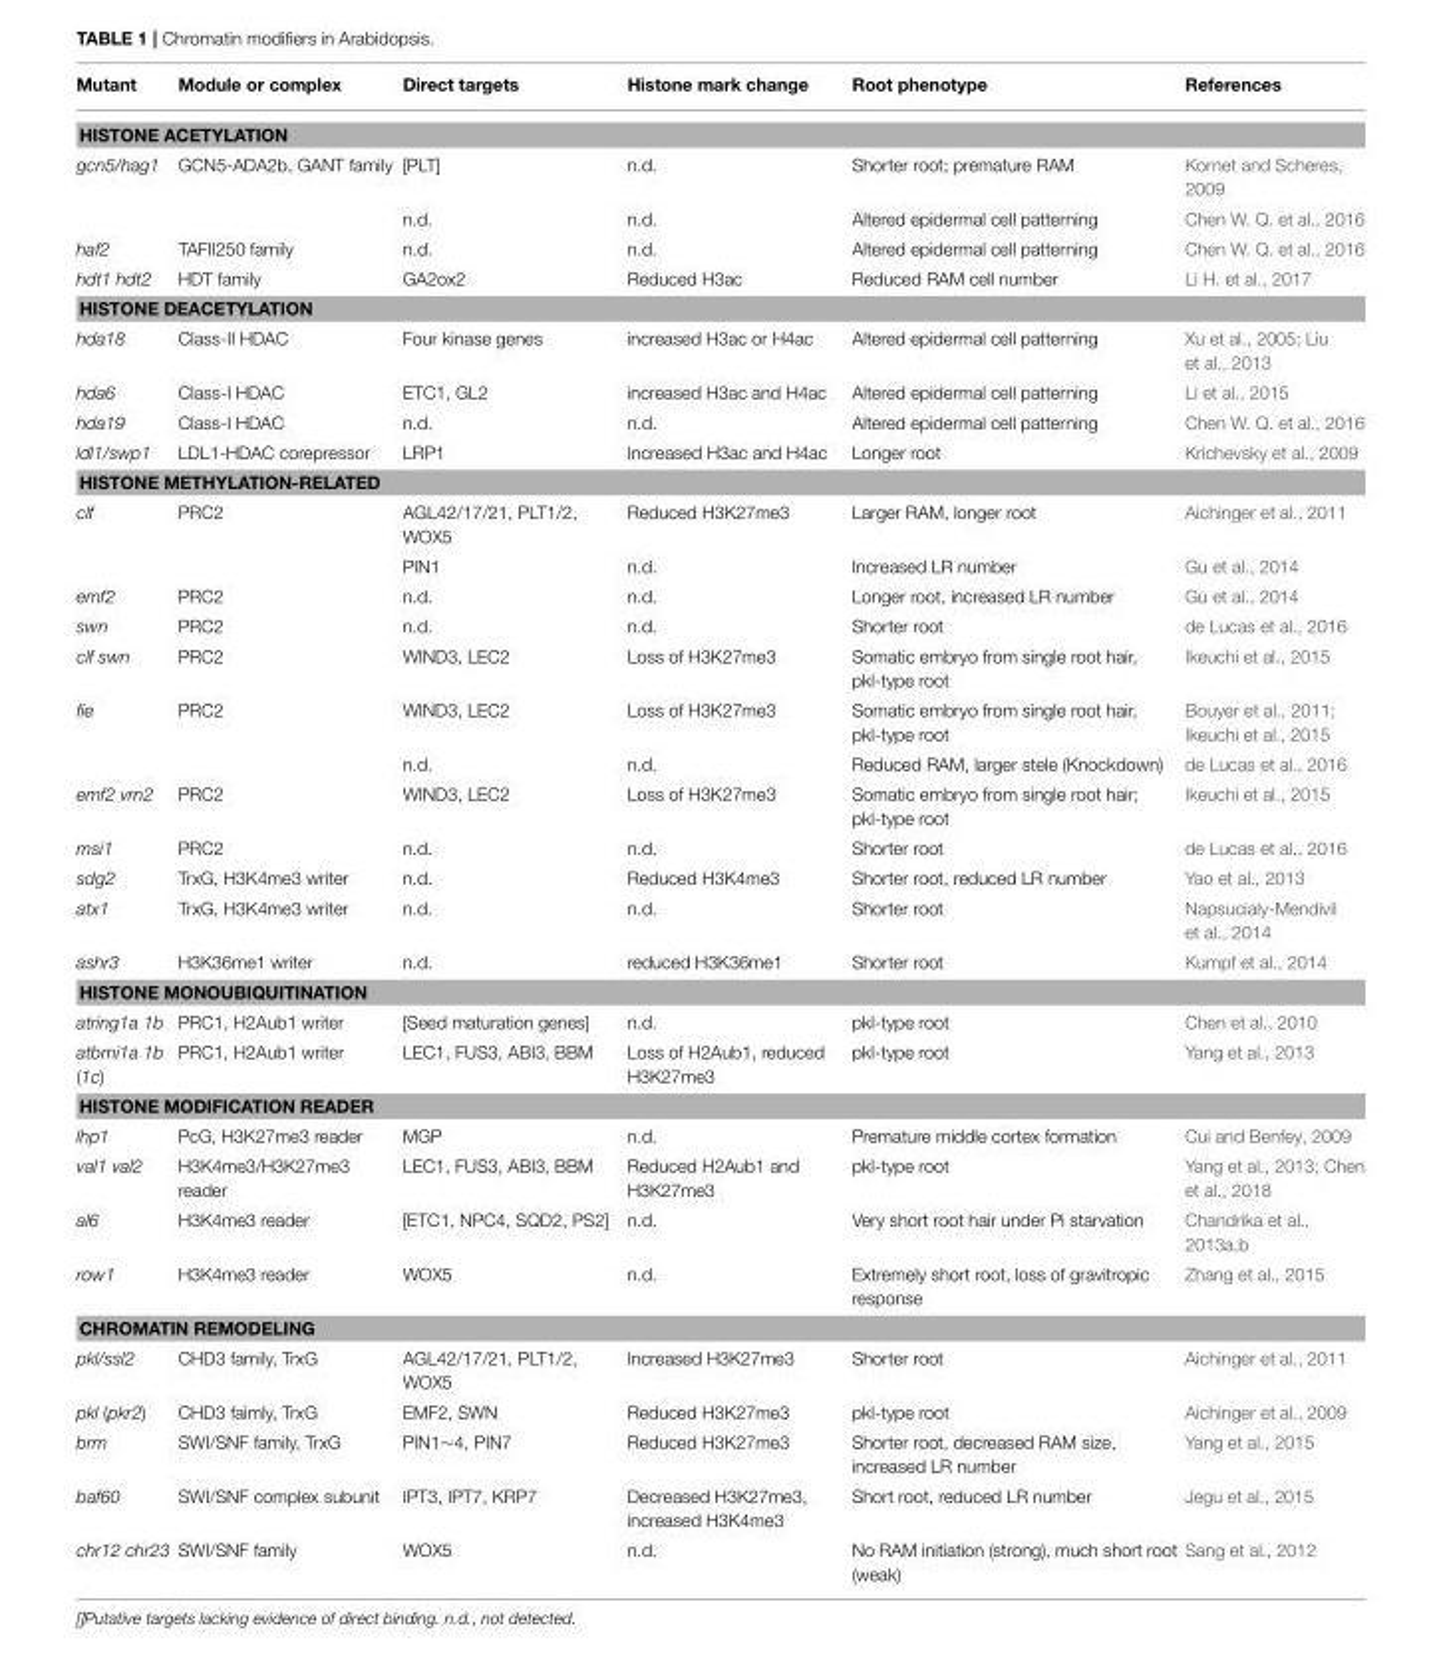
<table><thead><tr><td>Mutant</td><td>Module or complex</td><td>Direct targets</td><td>Histone mark change</td><td>Root phenotype</td><td>References</td></tr></thead><tbody><tr><td colspan="6">HISTONE ACETYLATION</td></tr><tr><td rowspan="2">gcn5/hag1</td><td>GCN5-ADA2b, GANT family</td><td>[PLT]</td><td>n.d.</td><td>Shorter root; premature RAM</td><td>Kornet and Scheres, 2009</td></tr><tr><td></td><td>n.d.</td><td>n.d.</td><td>Altered epidermal cell patterning</td><td>Chen W. Q. et al., 2016</td></tr><tr><td>haf2</td><td>TAFII250 family</td><td>n.d.</td><td>n.d.</td><td>Altered epidermal cell patterning</td><td>Chen W. Q. et al., 2016</td></tr><tr><td>hdt1 hdt2</td><td>HDT family</td><td>GA2ox2</td><td>Reduced H3ac</td><td>Reduced RAM cell number</td><td>Li H. et al., 2017</td></tr><tr><td colspan="6">HISTONE DEACETYLATION</td></tr><tr><td>hda18</td><td>Class-II HDAC</td><td>Four kinase genes</td><td>increased H3ac or H4ac</td><td>Altered epidermal cell patterning</td><td>Xu et al., 2005; Liu et al., 2013</td></tr><tr><td>hda6</td><td>Class-I HDAC</td><td>ETC1, GL2</td><td>increased H3ac and H4ac</td><td>Altered epidermal cell patterning</td><td>Li et al., 2015</td></tr><tr><td>hda19</td><td>Class-I HDAC</td><td>n.d.</td><td>n.d.</td><td>Altered epidermal cell patterning</td><td>Chen W. Q. et al., 2016</td></tr><tr><td>ldl1/swp1</td><td>LDL1-HDAC corepressor</td><td>LRP1</td><td>Increased H3ac and H4ac</td><td>Longer root</td><td>Krichevsky et al., 2009</td></tr><tr><td colspan="6">HISTONE METHYLATION-RELATED</td></tr><tr><td rowspan="2">clf</td><td>PRC2</td><td>AGL42/17/21, PLT1/2, WOX5</td><td>Reduced H3K27me3</td><td>Larger RAM, longer root</td><td>Aichinger et al., 2011</td></tr><tr><td></td><td>PIN1</td><td>n.d.</td><td>Increased LR number</td><td>Gu et al., 2014</td></tr><tr><td>emf2</td><td>PRC2</td><td>n.d.</td><td>n.d.</td><td>Longer root, increased LR number</td><td>Gu et al., 2014</td></tr><tr><td>swn</td><td>PRC2</td><td>n.d.</td><td>n.d.</td><td>Shorter root</td><td>de Lucas et al., 2016</td></tr><tr><td>clf swn</td><td>PRC2</td><td>WIND3, LEC2</td><td>Loss of H3K27me3</td><td>Somatic embryo from single root hair, pkl-type root</td><td>Ikeuchi et al., 2015</td></tr><tr><td rowspan="2">fie</td><td>PRC2</td><td>WIND3, LEC2</td><td>Loss of H3K27me3</td><td>Somatic embryo from single root hair, pkl-type root</td><td>Bouyer et al., 2011; Ikeuchi et al., 2015</td></tr><tr><td></td><td>n.d.</td><td>n.d.</td><td>Reduced RAM, larger stele (Knockdown)</td><td>de Lucas et al., 2016</td></tr><tr><td>emf2 vrn2</td><td>PRC2</td><td>WIND3, LEC2</td><td>Loss of H3K27me3</td><td>Somatic embryo from single root hair; pkl-type root</td><td>Ikeuchi et al., 2015</td></tr><tr><td>msi1</td><td>PRC2</td><td>n.d.</td><td>n.d.</td><td>Shorter root</td><td>de Lucas et al., 2016</td></tr><tr><td>sdg2</td><td>TrxG, H3K4me3 writer</td><td>n.d.</td><td>Reduced H3K4me3</td><td>Shorter root, reduced LR number</td><td>Yao et al., 2013</td></tr><tr><td>atx1</td><td>TrxG, H3K4me3 writer</td><td>n.d.</td><td>n.d.</td><td>Shorter root</td><td>Napsucialy-Mendivil et al., 2014</td></tr><tr><td>ashr3</td><td>H3K36me1 writer</td><td>n.d.</td><td>reduced H3K36me1</td><td>Shorter root</td><td>Kumpf et al., 2014</td></tr><tr><td colspan="6">HISTONE MONOUBIQUITINATION</td></tr><tr><td>atring1a 1b</td><td>PRC1, H2Aub1 writer</td><td>[Seed maturation genes]</td><td>n.d.</td><td>pkl-type root</td><td>Chen et al., 2010</td></tr><tr><td>atbmi1a 1b (1c)</td><td>PRC1, H2Aub1 writer</td><td>LEC1, FUS3, ABI3, BBM</td><td>Loss of H2Aub1, reduced H3K27me3</td><td>pkl-type root</td><td>Yang et al., 2013</td></tr><tr><td colspan="6">HISTONE MODIFICATION READER</td></tr><tr><td>lhp1</td><td>PcG, H3K27me3 reader</td><td>MGP</td><td>n.d.</td><td>Premature middle cortex formation</td><td>Cui and Benfey, 2009</td></tr><tr><td>val1 val2</td><td>H3K4me3/H3K27me3 reader</td><td>LEC1, FUS3, ABI3, BBM</td><td>Reduced H2Aub1 and H3K27me3</td><td>pkl-type root</td><td>Yang et al., 2013; Chen et al., 2018</td></tr><tr><td>al6</td><td>H3K4me3 reader</td><td>[ETC1, NPC4, SQD2, PS2]</td><td>n.d.</td><td>Very short root hair under Pi starvation</td><td>Chandrika et al., 2013a,b</td></tr><tr><td>row1</td><td>H3K4me3 reader</td><td>WOX5</td><td>n.d.</td><td>Extremely short root, loss of gravitropic response</td><td>Zhang et al., 2015</td></tr><tr><td colspan="6">CHROMATIN REMODELING</td></tr><tr><td>pkl/ssl2</td><td>CHD3 family, TrxG</td><td>AGL42/17/21, PLT1/2, WOX5</td><td>Increased H3K27me3</td><td>Shorter root</td><td>Aichinger et al., 2011</td></tr><tr><td>pkl (pkr2)</td><td>CHD3 faimly, TrxG</td><td>EMF2, SWN</td><td>Reduced H3K27me3</td><td>pkl-type root</td><td>Aichinger et al., 2009</td></tr><tr><td>brm</td><td>SWI/SNF family, TrxG</td><td>PIN1∼4, PIN7</td><td>Reduced H3K27me3</td><td>Shorter root, decreased RAM size, increased LR number</td><td>Yang et al., 2015</td></tr><tr><td>baf60</td><td>SWI/SNF complex subunit</td><td>IPT3, IPT7, KRP7</td><td>Decreased H3K27me3, increased H3K4me3</td><td>Short root, reduced LR number</td><td>Jegu et al., 2015</td></tr><tr><td>chr12 chr23</td><td>SWI/SNF family</td><td>WOX5</td><td>n.d.</td><td>No RAM initiation (strong), much short root (weak)</td><td>Sang et al., 2012</td></tr></tbody></table>